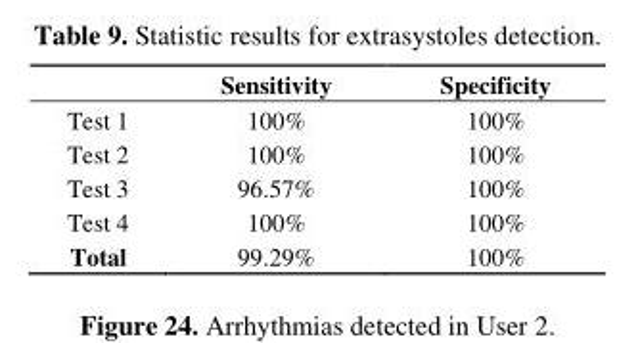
<table><thead><tr><td></td><td>Sensitivity</td><td>Specificity</td></tr></thead><tbody><tr><td>Test 1</td><td>100%</td><td>100%</td></tr><tr><td>Test 2</td><td>100%</td><td>100%</td></tr><tr><td>Test 3</td><td>96.57%</td><td>100%</td></tr><tr><td>Test 4</td><td>100%</td><td>100%</td></tr><tr><td>Total</td><td>99.29%</td><td>100%</td></tr></tbody></table>